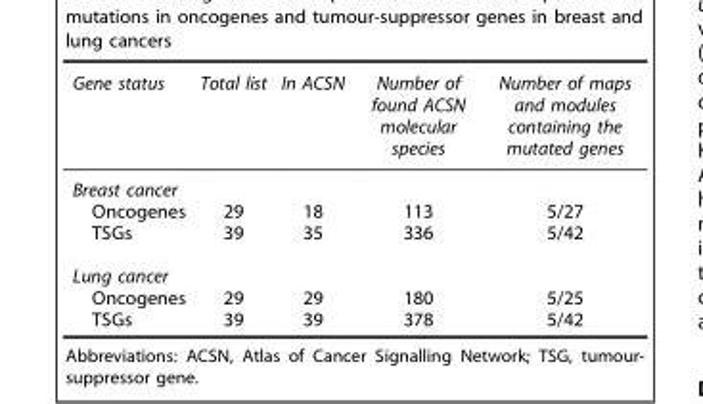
<table><thead><tr><td>Gene status</td><td>Total list</td><td>In ACSN</td><td>Number of found ACSN molecular species</td><td>Number of maps and modules containing the mutated genes</td></tr></thead><tbody><tr><td colspan="5">Breast cancer</td></tr><tr><td>Oncogenes</td><td>29</td><td>18</td><td>113</td><td>5/27</td></tr><tr><td>TSGs</td><td>39</td><td>35</td><td>336</td><td>5/42</td></tr><tr><td colspan="5">Lung cancer</td></tr><tr><td>Oncogenes</td><td>29</td><td>29</td><td>180</td><td>5/25</td></tr><tr><td>TSGs</td><td>39</td><td>39</td><td>378</td><td>5/42</td></tr></tbody></table>